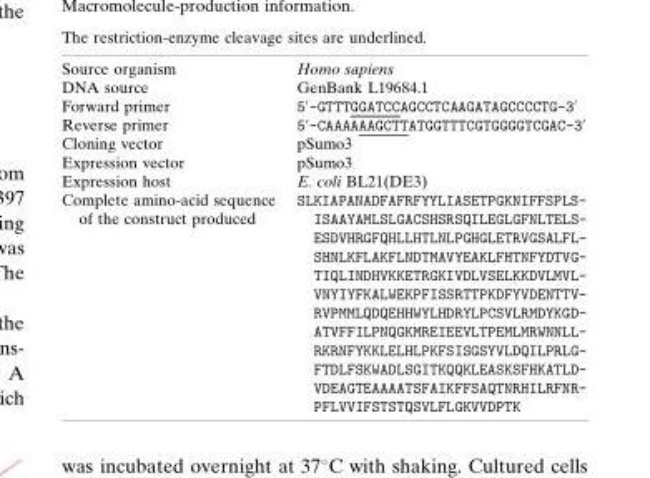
<table><tbody><tr><td>Source organism</td><td>Homo sapiens</td></tr><tr><td>DNA source</td><td>GenBank L19684.1</td></tr><tr><td>Forward primer</td><td>50-GTTTGGATCCAGCCTCAAGATAGCCCCTG-30</td></tr><tr><td>Reverse primer</td><td>50-CAAAAAAGCTTATGGTTTCGTGGGGTCGAC-30</td></tr><tr><td>Cloning vector</td><td>pSumo3</td></tr><tr><td>Expression vector</td><td>pSumo3</td></tr><tr><td>Expression host</td><td>E. coli BL21(DE3)</td></tr><tr><td>Complete amino-acid sequence of the construct produced</td><td>SLKIAPANADFAFRFYYLIASETPGKNIFFSPLS- ISAAYAMLSLGACSHSRSQILEGLGFNLTELS- ESDVHRGFQHLLHTLNLPGHGLETRVGSALFL- SHNLKFLAKFLNDTMAVYEAKLFHTNFYDTVG- TIQLINDHVKKETRGKIVDLVSELKKDVLMVL- VNYIYFKALWEKPFISSRTTPKDFYVDENTTV- RVPMMLQDQEHHWYLHDRYLPCSVLRMDYKGD- ATVFFILPNQGKMREIEEVLTPEMLMRWNNLL- RKRNFYKKLELHLPKFSISGSYVLDQILPRLG- FTDLFSKWADLSGITKQQKLEASKSFHKATLD- VDEAGTEAAAATSFAIKFFSAQTNRHILRFNR- PFLVVIFSTSTQSVLFLGKVVDPTK</td></tr></tbody></table>